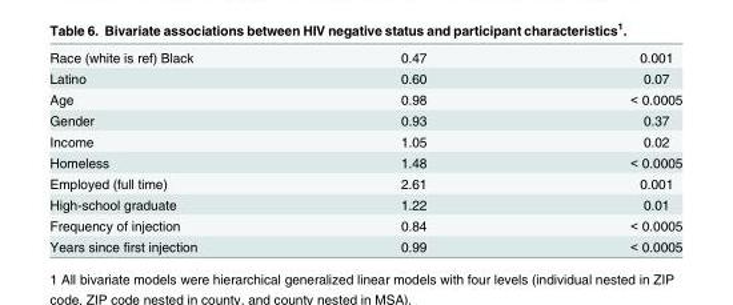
<table><tbody><tr><td>Race (white is ref) Black</td><td>0.47</td><td>0.001</td></tr><tr><td>Latino</td><td>0.60</td><td>0.07</td></tr><tr><td>Age</td><td>0.98</td><td>&lt; 0.0005</td></tr><tr><td>Gender</td><td>0.93</td><td>0.37</td></tr><tr><td>Income</td><td>1.05</td><td>0.02</td></tr><tr><td>Homeless</td><td>1.48</td><td>&lt; 0.0005</td></tr><tr><td>Employed (full time)</td><td>2.61</td><td>0.001</td></tr><tr><td>High-school graduate</td><td>1.22</td><td>0.01</td></tr><tr><td>Frequency of injection</td><td>0.84</td><td>&lt; 0.0005</td></tr><tr><td>Years since first injection</td><td>0.99</td><td>&lt; 0.0005</td></tr></tbody></table>